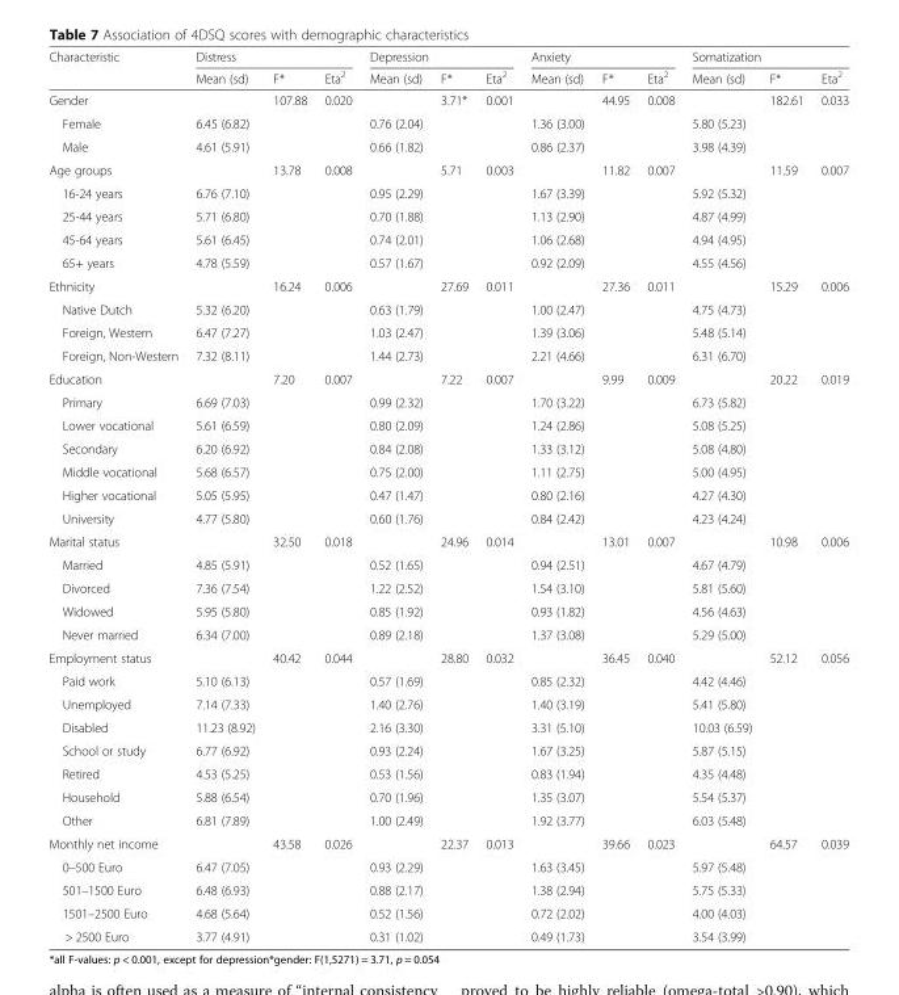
<table><thead><tr><td rowspan="2">Characteristic</td><td colspan="3">Distress</td><td colspan="3">Depression</td><td colspan="3">Anxiety</td><td colspan="3">Somatization</td></tr><tr><td>Mean (sd)</td><td>F*</td><td>Eta<sup>2</sup></td><td>Mean (sd)</td><td>F*</td><td>Eta<sup>2</sup></td><td>Mean (sd)</td><td>F*</td><td>Eta<sup>2</sup></td><td>Mean (sd)</td><td>F*</td><td>Eta<sup>2</sup></td></tr></thead><tbody><tr><td>Gender</td><td></td><td>107.88</td><td>0.020</td><td></td><td>3.71*</td><td>0.001</td><td></td><td>44.95</td><td>0.008</td><td></td><td>182.61</td><td>0.033</td></tr><tr><td>Female</td><td>6.45 (6.82)</td><td></td><td></td><td>0.76 (2.04)</td><td></td><td></td><td>1.36 (3.00)</td><td></td><td></td><td>5.80 (5.23)</td><td></td><td></td></tr><tr><td>Male</td><td>4.61 (5.91)</td><td></td><td></td><td>0.66 (1.82)</td><td></td><td></td><td>0.86 (2.37)</td><td></td><td></td><td>3.98 (4.39)</td><td></td><td></td></tr><tr><td>Age groups</td><td></td><td>13.78</td><td>0.008</td><td></td><td>5.71</td><td>0.003</td><td></td><td>11.82</td><td>0.007</td><td></td><td>11.59</td><td>0.007</td></tr><tr><td>16-24 years</td><td>6.76 (7.10)</td><td></td><td></td><td>0.95 (2.29)</td><td></td><td></td><td>1.67 (3.39)</td><td></td><td></td><td>5.92 (5.32)</td><td></td><td></td></tr><tr><td>25-44 years</td><td>5.71 (6.80)</td><td></td><td></td><td>0.70 (1.88)</td><td></td><td></td><td>1.13 (2.90)</td><td></td><td></td><td>4.87 (4.99)</td><td></td><td></td></tr><tr><td>45-64 years</td><td>5.61 (6.45)</td><td></td><td></td><td>0.74 (2.01)</td><td></td><td></td><td>1.06 (2.68)</td><td></td><td></td><td>4.94 (4.95)</td><td></td><td></td></tr><tr><td>65+ years</td><td>4.78 (5.59)</td><td></td><td></td><td>0.57 (1.67)</td><td></td><td></td><td>0.92 (2.09)</td><td></td><td></td><td>4.55 (4.56)</td><td></td><td></td></tr><tr><td>Ethnicity</td><td></td><td>16.24</td><td>0.006</td><td></td><td>27.69</td><td>0.011</td><td></td><td>27.36</td><td>0.011</td><td></td><td>15.29</td><td>0.006</td></tr><tr><td>Native Dutch</td><td>5.32 (6.20)</td><td></td><td></td><td>0.63 (1.79)</td><td></td><td></td><td>1.00 (2.47)</td><td></td><td></td><td>4.75 (4.73)</td><td></td><td></td></tr><tr><td>Foreign, Western</td><td>6.47 (7.27)</td><td></td><td></td><td>1.03 (2.47)</td><td></td><td></td><td>1.39 (3.06)</td><td></td><td></td><td>5.48 (5.14)</td><td></td><td></td></tr><tr><td>Foreign, Non-Western</td><td>7.32 (8.11)</td><td></td><td></td><td>1.44 (2.73)</td><td></td><td></td><td>2.21 (4.66)</td><td></td><td></td><td>6.31 (6.70)</td><td></td><td></td></tr><tr><td>Education</td><td></td><td>7.20</td><td>0.007</td><td></td><td>7.22</td><td>0.007</td><td></td><td>9.99</td><td>0.009</td><td></td><td>20.22</td><td>0.019</td></tr><tr><td>Primary</td><td>6.69 (7.03)</td><td></td><td></td><td>0.99 (2.32)</td><td></td><td></td><td>1.70 (3.22)</td><td></td><td></td><td>6.73 (5.82)</td><td></td><td></td></tr><tr><td>Lower vocational</td><td>5.61 (6.59)</td><td></td><td></td><td>0.80 (2.09)</td><td></td><td></td><td>1.24 (2.86)</td><td></td><td></td><td>5.08 (5.25)</td><td></td><td></td></tr><tr><td>Secondary</td><td>6.20 (6.92)</td><td></td><td></td><td>0.84 (2.08)</td><td></td><td></td><td>1.33 (3.12)</td><td></td><td></td><td>5.08 (4.80)</td><td></td><td></td></tr><tr><td>Middle vocational</td><td>5.68 (6.57)</td><td></td><td></td><td>0.75 (2.00)</td><td></td><td></td><td>1.11 (2.75)</td><td></td><td></td><td>5.00 (4.95)</td><td></td><td></td></tr><tr><td>Higher vocational</td><td>5.05 (5.95)</td><td></td><td></td><td>0.47 (1.47)</td><td></td><td></td><td>0.80 (2.16)</td><td></td><td></td><td>4.27 (4.30)</td><td></td><td></td></tr><tr><td>University</td><td>4.77 (5.80)</td><td></td><td></td><td>0.60 (1.76)</td><td></td><td></td><td>0.84 (2.42)</td><td></td><td></td><td>4.23 (4.24)</td><td></td><td></td></tr><tr><td>Marital status</td><td></td><td>32.50</td><td>0.018</td><td></td><td>24.96</td><td>0.014</td><td></td><td>13.01</td><td>0.007</td><td></td><td>10.98</td><td>0.006</td></tr><tr><td>Married</td><td>4.85 (5.91)</td><td></td><td></td><td>0.52 (1.65)</td><td></td><td></td><td>0.94 (2.51)</td><td></td><td></td><td>4.67 (4.79)</td><td></td><td></td></tr><tr><td>Divorced</td><td>7.36 (7.54)</td><td></td><td></td><td>1.22 (2.52)</td><td></td><td></td><td>1.54 (3.10)</td><td></td><td></td><td>5.81 (5.60)</td><td></td><td></td></tr><tr><td>Widowed</td><td>5.95 (5.80)</td><td></td><td></td><td>0.85 (1.92)</td><td></td><td></td><td>0.93 (1.82)</td><td></td><td></td><td>4.56 (4.63)</td><td></td><td></td></tr><tr><td>Never married</td><td>6.34 (7.00)</td><td></td><td></td><td>0.89 (2.18)</td><td></td><td></td><td>1.37 (3.08)</td><td></td><td></td><td>5.29 (5.00)</td><td></td><td></td></tr><tr><td>Employment status</td><td></td><td>40.42</td><td>0.044</td><td></td><td>28.80</td><td>0.032</td><td></td><td>36.45</td><td>0.040</td><td></td><td>52.12</td><td>0.056</td></tr><tr><td>Paid work</td><td>5.10 (6.13)</td><td></td><td></td><td>0.57 (1.69)</td><td></td><td></td><td>0.85 (2.32)</td><td></td><td></td><td>4.42 (4.46)</td><td></td><td></td></tr><tr><td>Unemployed</td><td>7.14 (7.33)</td><td></td><td></td><td>1.40 (2.76)</td><td></td><td></td><td>1.40 (3.19)</td><td></td><td></td><td>5.41 (5.80)</td><td></td><td></td></tr><tr><td>Disabled</td><td>11.23 (8.92)</td><td></td><td></td><td>2.16 (3.30)</td><td></td><td></td><td>3.31 (5.10)</td><td></td><td></td><td>10.03 (6.59)</td><td></td><td></td></tr><tr><td>School or study</td><td>6.77 (6.92)</td><td></td><td></td><td>0.93 (2.24)</td><td></td><td></td><td>1.67 (3.25)</td><td></td><td></td><td>5.87 (5.15)</td><td></td><td></td></tr><tr><td>Retired</td><td>4.53 (5.25)</td><td></td><td></td><td>0.53 (1.56)</td><td></td><td></td><td>0.83 (1.94)</td><td></td><td></td><td>4.35 (4.48)</td><td></td><td></td></tr><tr><td>Household</td><td>5.88 (6.54)</td><td></td><td></td><td>0.70 (1.96)</td><td></td><td></td><td>1.35 (3.07)</td><td></td><td></td><td>5.54 (5.37)</td><td></td><td></td></tr><tr><td>Other</td><td>6.81 (7.89)</td><td></td><td></td><td>1.00 (2.49)</td><td></td><td></td><td>1.92 (3.77)</td><td></td><td></td><td>6.03 (5.48)</td><td></td><td></td></tr><tr><td>Monthly net income</td><td></td><td>43.58</td><td>0.026</td><td></td><td>22.37</td><td>0.013</td><td></td><td>39.66</td><td>0.023</td><td></td><td>64.57</td><td>0.039</td></tr><tr><td>0–500 Euro</td><td>6.47 (7.05)</td><td></td><td></td><td>0.93 (2.29)</td><td></td><td></td><td>1.63 (3.45)</td><td></td><td></td><td>5.97 (5.48)</td><td></td><td></td></tr><tr><td>501–1500 Euro</td><td>6.48 (6.93)</td><td></td><td></td><td>0.88 (2.17)</td><td></td><td></td><td>1.38 (2.94)</td><td></td><td></td><td>5.75 (5.33)</td><td></td><td></td></tr><tr><td>1501–2500 Euro</td><td>4.68 (5.64)</td><td></td><td></td><td>0.52 (1.56)</td><td></td><td></td><td>0.72 (2.02)</td><td></td><td></td><td>4.00 (4.03)</td><td></td><td></td></tr><tr><td>&gt; 2500 Euro</td><td>3.77 (4.91)</td><td></td><td></td><td>0.31 (1.02)</td><td></td><td></td><td>0.49 (1.73)</td><td></td><td></td><td>3.54 (3.99)</td><td></td><td></td></tr></tbody></table>